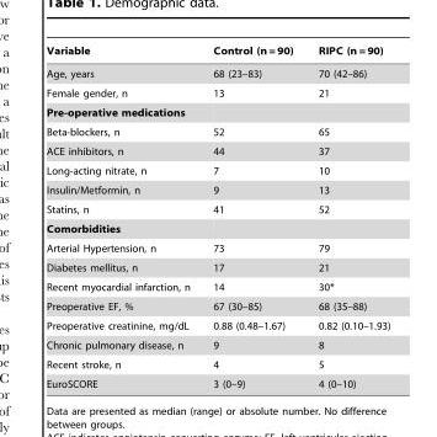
<table><thead><tr><td>Variable</td><td>Control (n = 90)</td><td>RIPC (n = 90)</td></tr></thead><tbody><tr><td>Age, years</td><td>68 (23–83)</td><td>70 (42–86)</td></tr><tr><td>Female gender, n</td><td>13</td><td>21</td></tr><tr><td colspan="3">Pre-operative medications</td></tr><tr><td>Beta-blockers, n</td><td>52</td><td>65</td></tr><tr><td>ACE inhibitors, n</td><td>44</td><td>37</td></tr><tr><td>Long-acting nitrate, n</td><td>7</td><td>10</td></tr><tr><td>Insulin/Metformin, n</td><td>9</td><td>13</td></tr><tr><td>Statins, n</td><td>41</td><td>52</td></tr><tr><td colspan="3">Comorbidities</td></tr><tr><td>Arterial Hypertension, n</td><td>73</td><td>79</td></tr><tr><td>Diabetes mellitus, n</td><td>17</td><td>21</td></tr><tr><td>Recent myocardial infarction, n</td><td>14</td><td>30*</td></tr><tr><td>Preoperative EF, %</td><td>67 (30–85)</td><td>68 (35–88)</td></tr><tr><td>Preoperative creatinine, mg/dL</td><td>0.88 (0.48–1.67)</td><td>0.82 (0.10–1.93)</td></tr><tr><td>Chronic pulmonary disease, n</td><td>9</td><td>8</td></tr><tr><td>Recent stroke, n</td><td>4</td><td>5</td></tr><tr><td>EuroSCORE</td><td>3 (0–9)</td><td>4 (0–10)</td></tr></tbody></table>